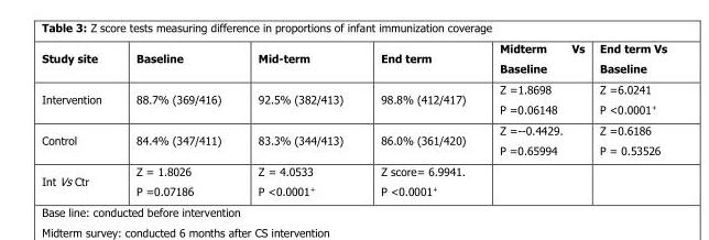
<table><thead><tr><td>Study site</td><td>Baseline</td><td>Mid-term</td><td>End term</td><td>Midterm Vs Baseline</td><td>End term Vs Baseline</td></tr></thead><tbody><tr><td>Intervention</td><td>88.7% (369/416)</td><td>92.5% (382/413)</td><td>98.8% (412/417)</td><td>Z =1.8698 P =0.06148</td><td>Z =6.0241 P &lt;0.0001<sup>+</sup></td></tr><tr><td>Control</td><td>84.4% (347/411)</td><td>83.3% (344/413)</td><td>86.0% (361/420)</td><td>Z =--0.4429. P =0.65994</td><td>Z =0.6186 P = 0.53526</td></tr><tr><td>Int Vs Ctr</td><td>Z = 1.8026 P =0.07186</td><td>Z = 4.0533 P &lt;0.0001<sup>+</sup></td><td>Z score= 6.9941. P &lt;0.0001<sup>+</sup></td><td></td><td></td></tr></tbody></table>